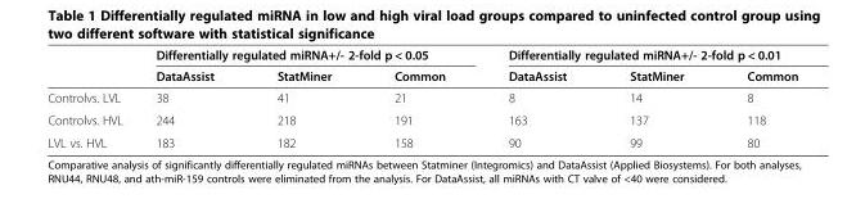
<table><thead><tr><td rowspan="2"></td><td colspan="3">Differentially regulated miRNA+/- 2-fold p &lt; 0.05</td><td colspan="3">Differentially regulated miRNA+/- 2-fold p &lt; 0.01</td></tr><tr><td>DataAssist</td><td>StatMiner</td><td>Common</td><td>DataAssist</td><td>StatMiner</td><td>Common</td></tr></thead><tbody><tr><td>Controlvs. LVL</td><td>38</td><td>41</td><td>21</td><td>8</td><td>14</td><td>8</td></tr><tr><td>Controlvs. HVL</td><td>244</td><td>218</td><td>191</td><td>163</td><td>137</td><td>118</td></tr><tr><td>LVL vs. HVL</td><td>183</td><td>182</td><td>158</td><td>90</td><td>99</td><td>80</td></tr></tbody></table>